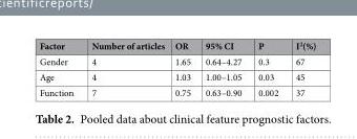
<table><thead><tr><td>Factor</td><td>Number of articles</td><td>OR</td><td>95% CI</td><td>P</td><td>I<sup>2</sup>(%)</td></tr></thead><tbody><tr><td>Gender</td><td>4</td><td>1.65</td><td>0.64–4.27</td><td>0.3</td><td>67</td></tr><tr><td>Age</td><td>4</td><td>1.03</td><td>1.00–1.05</td><td>0.03</td><td>45</td></tr><tr><td>Function</td><td>7</td><td>0.75</td><td>0.63–0.90</td><td>0.002</td><td>37</td></tr></tbody></table>